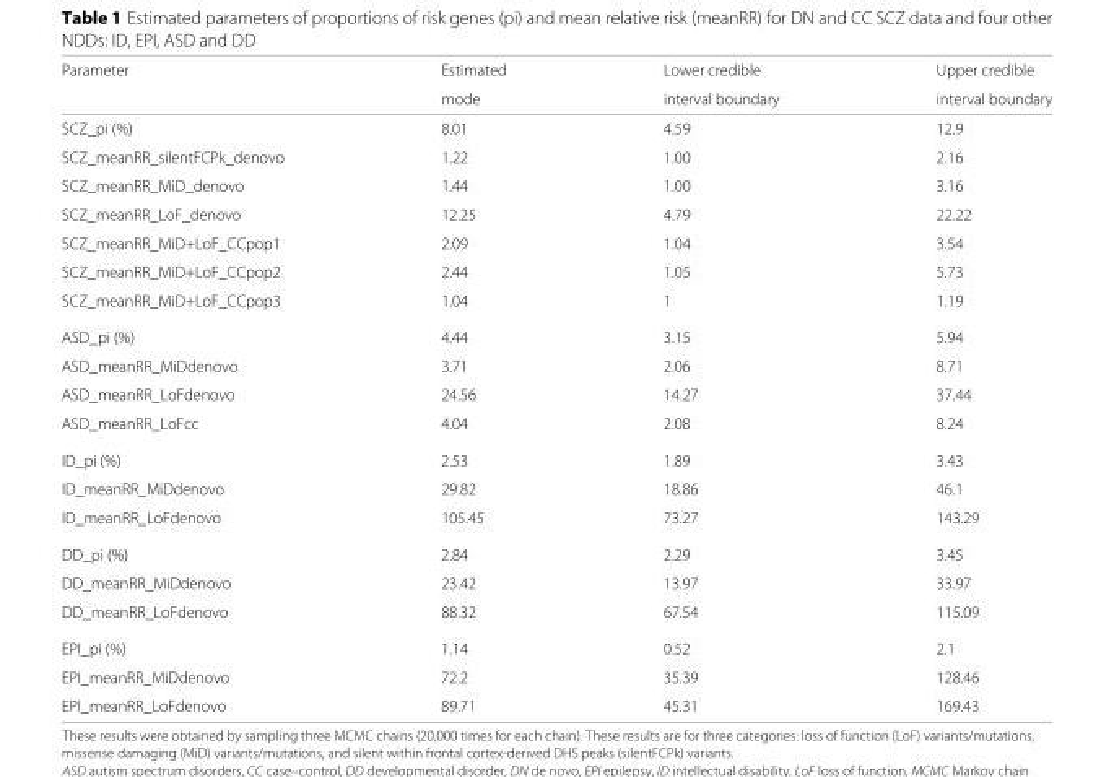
<table><thead><tr><td rowspan="2">Parameter</td><td rowspan="2">Estimated mode</td><td rowspan="2">Lower credible interval boundary</td><td rowspan="2">Upper credible interval boundary</td></tr><tr></tr></thead><tbody><tr><td>SCZ_pi (%)</td><td>8.01</td><td>4.59</td><td>12.9</td></tr><tr><td>SCZ_meanRR_silentFCPk_denovo</td><td>1.22</td><td>1.00</td><td>2.16</td></tr><tr><td>SCZ_meanRR_MiD_denovo</td><td>1.44</td><td>1.00</td><td>3.16</td></tr><tr><td>SCZ_meanRR_LoF_denovo</td><td>12.25</td><td>4.79</td><td>22.22</td></tr><tr><td>SCZ_meanRR_MiD+LoF_CCpop1</td><td>2.09</td><td>1.04</td><td>3.54</td></tr><tr><td>SCZ_meanRR_MiD+LoF_CCpop2</td><td>2.44</td><td>1.05</td><td>5.73</td></tr><tr><td>SCZ_meanRR_MiD+LoF_CCpop3</td><td>1.04</td><td>1</td><td>1.19</td></tr><tr><td>ASD_pi (%)</td><td>4.44</td><td>3.15</td><td>5.94</td></tr><tr><td>ASD_meanRR_MiDdenovo</td><td>3.71</td><td>2.06</td><td>8.71</td></tr><tr><td>ASD_meanRR_LoFdenovo</td><td>24.56</td><td>14.27</td><td>37.44</td></tr><tr><td>ASD_meanRR_LoFcc</td><td>4.04</td><td>2.08</td><td>8.24</td></tr><tr><td>ID_pi (%)</td><td>2.53</td><td>1.89</td><td>3.43</td></tr><tr><td>ID_meanRR_MiDdenovo</td><td>29.82</td><td>18.86</td><td>46.1</td></tr><tr><td>ID_meanRR_LoFdenovo</td><td>105.45</td><td>73.27</td><td>143.29</td></tr><tr><td>DD_pi (%)</td><td>2.84</td><td>2.29</td><td>3.45</td></tr><tr><td>DD_meanRR_MiDdenovo</td><td>23.42</td><td>13.97</td><td>33.97</td></tr><tr><td>DD_meanRR_LoFdenovo</td><td>88.32</td><td>67.54</td><td>115.09</td></tr><tr><td>EPI_pi (%)</td><td>1.14</td><td>0.52</td><td>2.1</td></tr><tr><td>EPI_meanRR_MiDdenovo</td><td>72.2</td><td>35.39</td><td>128.46</td></tr><tr><td>EPI_meanRR_LoFdenovo</td><td>89.71</td><td>45.31</td><td>169.43</td></tr></tbody></table>